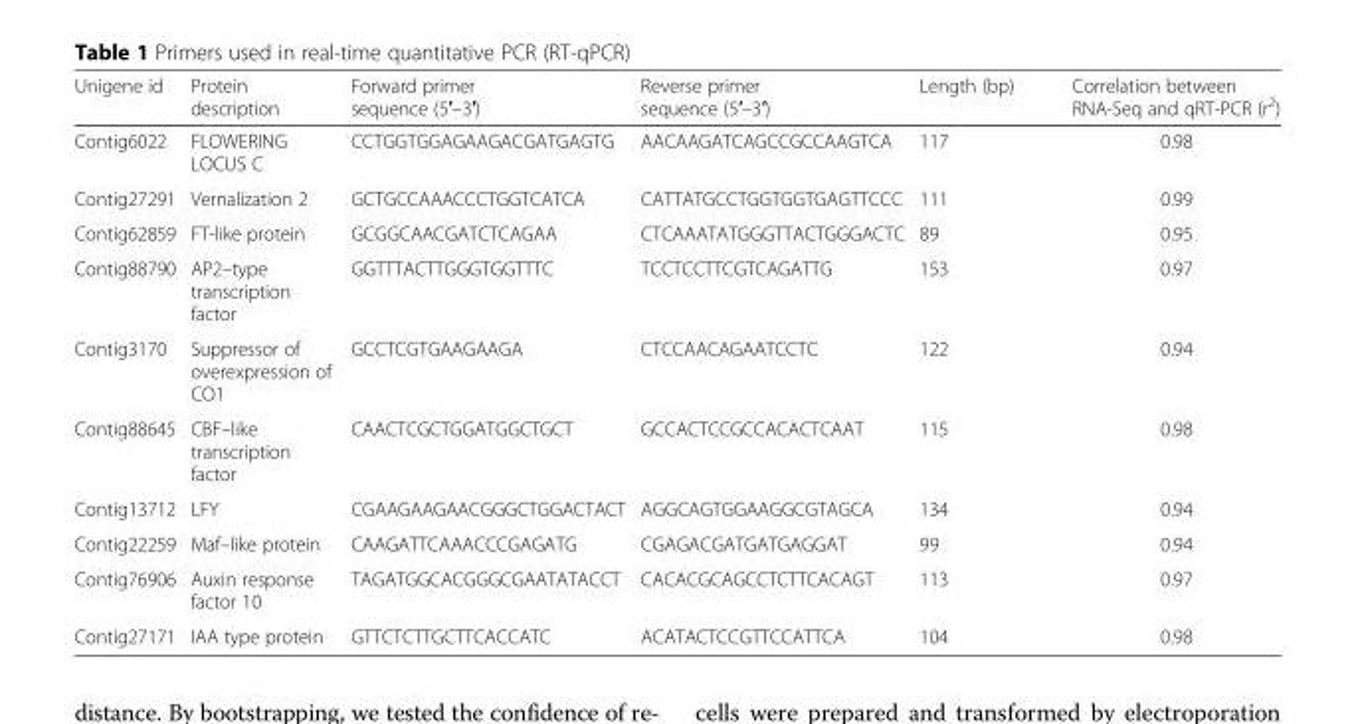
<table><thead><tr><td>Unigene id</td><td>Protein description</td><td>Forward primer sequence (5′–3′)</td><td>Reverse primer sequence (5′–3′)</td><td>Length (bp)</td><td>Correlation between RNA-Seq and qRT-PCR (r<sup>2</sup>)</td></tr></thead><tbody><tr><td>Contig6022</td><td>FLOWERING LOCUS C</td><td>CCTGGTGGAGAAGACGATGAGTG</td><td>AACAAGATCAGCCGCCAAGTCA</td><td>117</td><td>0.98</td></tr><tr><td>Contig27291</td><td>Vernalization 2</td><td>GCTGCCAAACCCTGGTCATCA</td><td>CATTATGCCTGGTGGTGAGTTCCC</td><td>111</td><td>0.99</td></tr><tr><td>Contig62859</td><td>FT-like protein</td><td>GCGGCAACGATCTCAGAA</td><td>CTCAAATATGGGTTACTGGGACTC</td><td>89</td><td>0.95</td></tr><tr><td>Contig88790</td><td>AP2–type transcription factor</td><td>GGTTTACTTGGGTGGTTTC</td><td>TCCTCCTTCGTCAGATTG</td><td>153</td><td>0.97</td></tr><tr><td>Contig3170</td><td>Suppressor of overexpression of CO1</td><td>GCCTCGTGAAGAAGA</td><td>CTCCAACAGAATCCTC</td><td>122</td><td>0.94</td></tr><tr><td>Contig88645</td><td>CBF–like transcription factor</td><td>CAACTCGCTGGATGGCTGCT</td><td>GCCACTCCGCCACACTCAAT</td><td>115</td><td>0.98</td></tr><tr><td>Contig13712</td><td>LFY</td><td>CGAAGAAGAACGGGCTGGACTACT</td><td>AGGCAGTGGAAGGCGTAGCA</td><td>134</td><td>0.94</td></tr><tr><td>Contig22259</td><td>Maf–like protein</td><td>CAAGATTCAAACCCGAGATG</td><td>CGAGACGATGATGAGGAT</td><td>99</td><td>0.94</td></tr><tr><td>Contig76906</td><td>Auxin response factor 10</td><td>TAGATGGCACGGGCGAATATACCT</td><td>CACACGCAGCCTCTTCACAGT</td><td>113</td><td>0.97</td></tr><tr><td>Contig27171</td><td>IAA type protein</td><td>GTTCTCTTGCTTCACCATC</td><td>ACATACTCCGTTCCATTCA</td><td>104</td><td>0.98</td></tr></tbody></table>